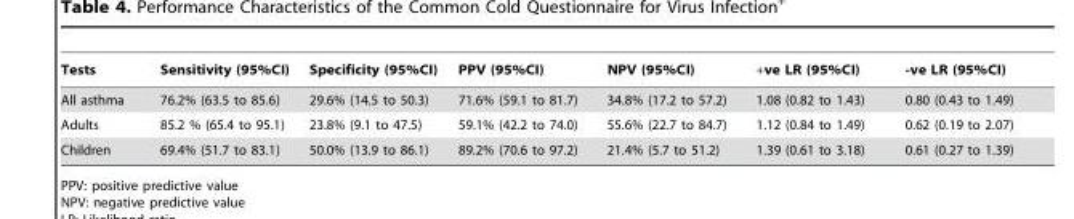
<table><thead><tr><td>Tests</td><td>Sensitivity (95%CI)</td><td>Specificity (95%CI)</td><td>PPV (95%CI)</td><td>NPV (95%CI)</td><td>+ve LR (95%CI)</td><td>-ve LR (95%CI)</td></tr></thead><tbody><tr><td>All asthma</td><td>76.2% (63.5 to 85.6)</td><td>29.6% (14.5 to 50.3)</td><td>71.6% (59.1 to 81.7)</td><td>34.8% (17.2 to 57.2)</td><td>1.08 (0.82 to 1.43)</td><td>0.80 (0.43 to 1.49)</td></tr><tr><td>Adults</td><td>85.2 % (65.4 to 95.1)</td><td>23.8% (9.1 to 47.5)</td><td>59.1% (42.2 to 74.0)</td><td>55.6% (22.7 to 84.7)</td><td>1.12 (0.84 to 1.49)</td><td>0.62 (0.19 to 2.07)</td></tr><tr><td>Children</td><td>69.4% (51.7 to 83.1)</td><td>50.0% (13.9 to 86.1)</td><td>89.2% (70.6 to 97.2)</td><td>21.4% (5.7 to 51.2)</td><td>1.39 (0.61 to 3.18)</td><td>0.61 (0.27 to 1.39)</td></tr></tbody></table>